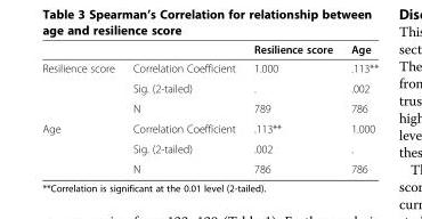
<table><thead><tr><td></td><td></td><td>Resilience score</td><td>Age</td></tr></thead><tbody><tr><td rowspan="3">Resilience score</td><td>Correlation Coefficient</td><td>1.000</td><td>.113**</td></tr><tr><td>Sig. (2-tailed)</td><td>.</td><td>.002</td></tr><tr><td>N</td><td>789</td><td>786</td></tr><tr><td rowspan="3">Age</td><td>Correlation Coefficient</td><td>.113**</td><td>1.000</td></tr><tr><td>Sig. (2-tailed)</td><td>.002</td><td>.</td></tr><tr><td>N</td><td>786</td><td>786</td></tr></tbody></table>